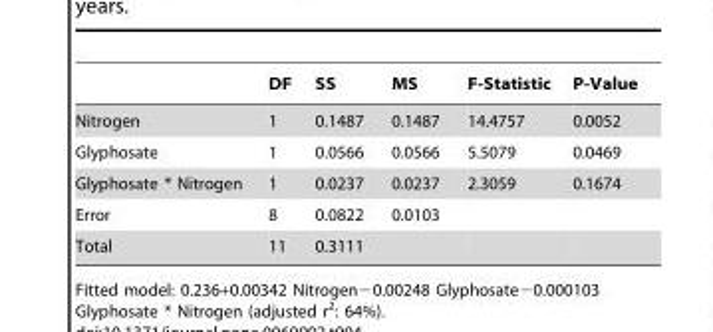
<table><thead><tr><td></td><td>DF</td><td>SS</td><td>MS</td><td>F-Statistic</td><td>P-Value</td></tr></thead><tbody><tr><td>Nitrogen</td><td>1</td><td>0.1487</td><td>0.1487</td><td>14.4757</td><td>0.0052</td></tr><tr><td>Glyphosate</td><td>1</td><td>0.0566</td><td>0.0566</td><td>5.5079</td><td>0.0469</td></tr><tr><td>Glyphosate * Nitrogen</td><td>1</td><td>0.0237</td><td>0.0237</td><td>2.3059</td><td>0.1674</td></tr><tr><td>Error</td><td>8</td><td>0.0822</td><td>0.0103</td><td></td><td></td></tr><tr><td>Total</td><td>11</td><td>0.3111</td><td></td><td></td><td></td></tr></tbody></table>